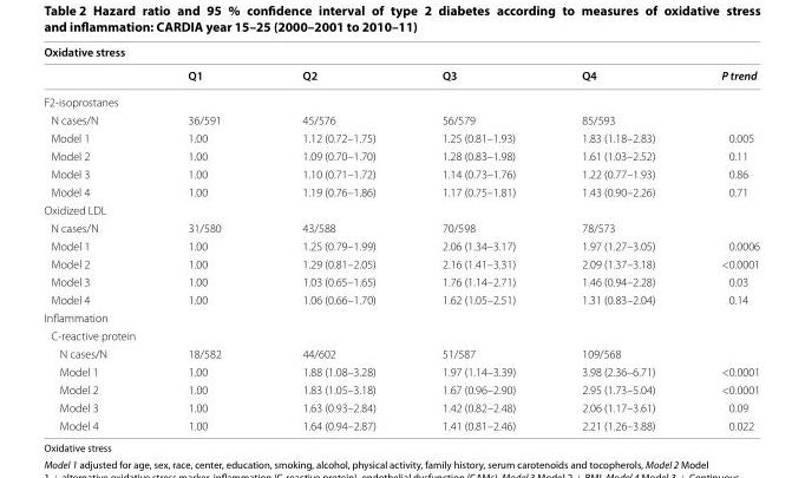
<table><thead><tr><td colspan="6">Oxidative stress</td></tr><tr><td></td><td>Q1</td><td>Q2</td><td>Q3</td><td>Q4</td><td>P trend</td></tr></thead><tbody><tr><td colspan="6">F2-isoprostanes</td></tr><tr><td>N cases/N</td><td>36/591</td><td>45/576</td><td>56/579</td><td>85/593</td><td></td></tr><tr><td>Model 1</td><td>1.00</td><td>1.12 (0.72–1.75)</td><td>1.25 (0.81–1.93)</td><td>1.83 (1.18–2.83)</td><td>0.005</td></tr><tr><td>Model 2</td><td>1.00</td><td>1.09 (0.70–1.70)</td><td>1.28 (0.83–1.98)</td><td>1.61 (1.03–2.52)</td><td>0.11</td></tr><tr><td>Model 3</td><td>1.00</td><td>1.10 (0.71–1.72)</td><td>1.14 (0.73–1.76)</td><td>1.22 (0.77–1.93)</td><td>0.86</td></tr><tr><td>Model 4</td><td>1.00</td><td>1.19 (0.76–1.86)</td><td>1.17 (0.75–1.81)</td><td>1.43 (0.90–2.26)</td><td>0.71</td></tr><tr><td colspan="6">Oxidized LDL</td></tr><tr><td>N cases/N</td><td>31/580</td><td>43/588</td><td>70/598</td><td>78/573</td><td></td></tr><tr><td>Model 1</td><td>1.00</td><td>1.25 (0.79–1.99)</td><td>2.06 (1.34–3.17)</td><td>1.97 (1.27–3.05)</td><td>0.0006</td></tr><tr><td>Model 2</td><td>1.00</td><td>1.29 (0.81–2.05)</td><td>2.16 (1.41–3.31)</td><td>2.09 (1.37–3.18)</td><td>&lt;0.0001</td></tr><tr><td>Model 3</td><td>1.00</td><td>1.03 (0.65–1.65)</td><td>1.76 (1.14–2.71)</td><td>1.46 (0.94–2.28)</td><td>0.03</td></tr><tr><td>Model 4</td><td>1.00</td><td>1.06 (0.66–1.70)</td><td>1.62 (1.05–2.51)</td><td>1.31 (0.83–2.04)</td><td>0.14</td></tr><tr><td colspan="6">Inflammation</td></tr><tr><td colspan="6">C-reactive protein</td></tr><tr><td>N cases/N</td><td>18/582</td><td>44/602</td><td>51/587</td><td>109/568</td><td></td></tr><tr><td>Model 1</td><td>1.00</td><td>1.88 (1.08–3.28)</td><td>1.97 (1.14–3.39)</td><td>3.98 (2.36–6.71)</td><td>&lt;0.0001</td></tr><tr><td>Model 2</td><td>1.00</td><td>1.83 (1.05–3.18)</td><td>1.67 (0.96–2.90)</td><td>2.95 (1.73–5.04)</td><td>&lt;0.0001</td></tr><tr><td>Model 3</td><td>1.00</td><td>1.63 (0.93–2.84)</td><td>1.42 (0.82–2.48)</td><td>2.06 (1.17–3.61)</td><td>0.09</td></tr><tr><td>Model 4</td><td>1.00</td><td>1.64 (0.94–2.87)</td><td>1.41 (0.81–2.46)</td><td>2.21 (1.26–3.88)</td><td>0.022</td></tr></tbody></table>